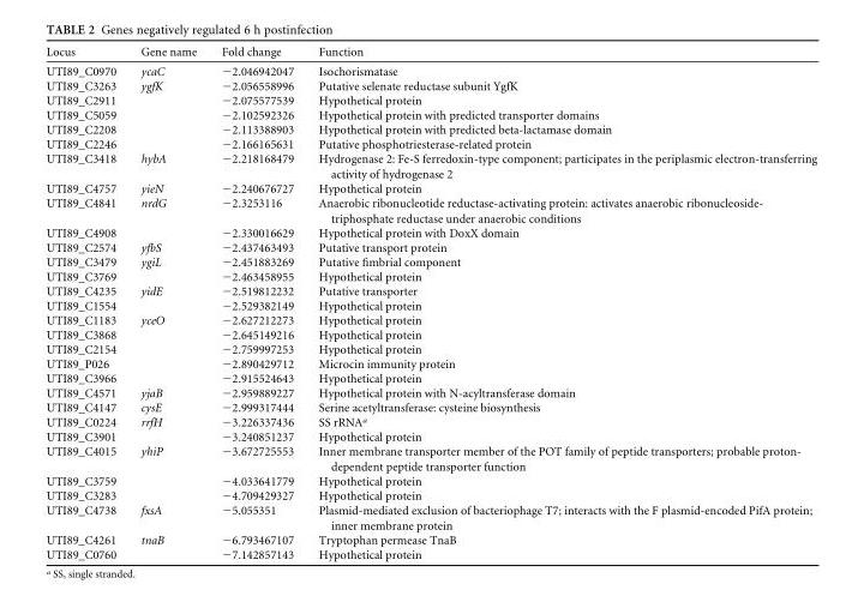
<table><thead><tr><td>Locus</td><td>Gene name</td><td>Fold change</td><td>Function</td></tr></thead><tbody><tr><td>UTI89_C0970</td><td>ycaC</td><td>−2.046942047</td><td>Isochorismatase</td></tr><tr><td>UTI89_C3263</td><td>ygfK</td><td>−2.056558996</td><td>Putative selenate reductase subunit YgfK</td></tr><tr><td>UTI89_C2911</td><td></td><td>−2.075577539</td><td>Hypothetical protein</td></tr><tr><td>UTI89_C5059</td><td></td><td>−2.102592326</td><td>Hypothetical protein with predicted transporter domains</td></tr><tr><td>UTI89_C2208</td><td></td><td>−2.113388903</td><td>Hypothetical protein with predicted beta-lactamase domain</td></tr><tr><td>UTI89_C2246</td><td></td><td>−2.166165631</td><td>Putative phosphotriesterase-related protein</td></tr><tr><td>UTI89_C3418</td><td>hybA</td><td>−2.218168479</td><td>Hydrogenase 2: Fe-S ferredoxin-type component; participates in the periplasmic electron-transferring activity of hydrogenase 2</td></tr><tr><td>UTI89_C4757</td><td>yieN</td><td>−2.240676727</td><td>Hypothetical protein</td></tr><tr><td>UTI89_C4841</td><td>nrdG</td><td>−2.3253116</td><td>Anaerobic ribonucleotide reductase-activating protein: activates anaerobic ribonucleoside- triphosphate reductase under anaerobic conditions</td></tr><tr><td>UTI89_C4908</td><td></td><td>−2.330016629</td><td>Hypothetical protein with DoxX domain</td></tr><tr><td>UTI89_C2574</td><td>yfbS</td><td>−2.437463493</td><td>Putative transport protein</td></tr><tr><td>UTI89_C3479</td><td>ygiL</td><td>−2.451883269</td><td>Putative fimbrial component</td></tr><tr><td>UTI89_C3769</td><td></td><td>−2.463458955</td><td>Hypothetical protein</td></tr><tr><td>UTI89_C4235</td><td>yidE</td><td>−2.519812232</td><td>Putative transporter</td></tr><tr><td>UTI89_C1554</td><td></td><td>−2.529382149</td><td>Hypothetical protein</td></tr><tr><td>UTI89_C1183</td><td>yceO</td><td>−2.627212273</td><td>Hypothetical protein</td></tr><tr><td>UTI89_C3868</td><td></td><td>−2.645149216</td><td>Hypothetical protein</td></tr><tr><td>UTI89_C2154</td><td></td><td>−2.759997253</td><td>Hypothetical protein</td></tr><tr><td>UTI89_P026</td><td></td><td>−2.890429712</td><td>Microcin immunity protein</td></tr><tr><td>UTI89_C3966</td><td></td><td>−2.915524643</td><td>Hypothetical protein</td></tr><tr><td>UTI89_C4571</td><td>yjaB</td><td>−2.959889227</td><td>Hypothetical protein with N-acyltransferase domain</td></tr><tr><td>UTI89_C4147</td><td>cysE</td><td>−2.999317444</td><td>Serine acetyltransferase: cysteine biosynthesis</td></tr><tr><td>UTI89_C0224</td><td>rrfH</td><td>−3.226337436</td><td>SS rRNA<sup>a</sup></td></tr><tr><td>UTI89_C3901</td><td></td><td>−3.240851237</td><td>Hypothetical protein</td></tr><tr><td>UTI89_C4015</td><td>yhiP</td><td>−3.672725553</td><td>Inner membrane transporter member of the POT family of peptide transporters; probable proton- dependent peptide transporter function</td></tr><tr><td>UTI89_C3759</td><td></td><td>−4.033641779</td><td>Hypothetical protein</td></tr><tr><td>UTI89_C3283</td><td></td><td>−4.709429327</td><td>Hypothetical protein</td></tr><tr><td>UTI89_C4738</td><td>fxsA</td><td>−5.055351</td><td>Plasmid-mediated exclusion of bacteriophage T7; interacts with the F plasmid-encoded PifA protein; inner membrane protein</td></tr><tr><td>UTI89_C4261</td><td>tnaB</td><td>−6.793467107</td><td>Tryptophan permease TnaB</td></tr><tr><td>UTI89_C0760</td><td></td><td>−7.142857143</td><td>Hypothetical protein</td></tr></tbody></table>